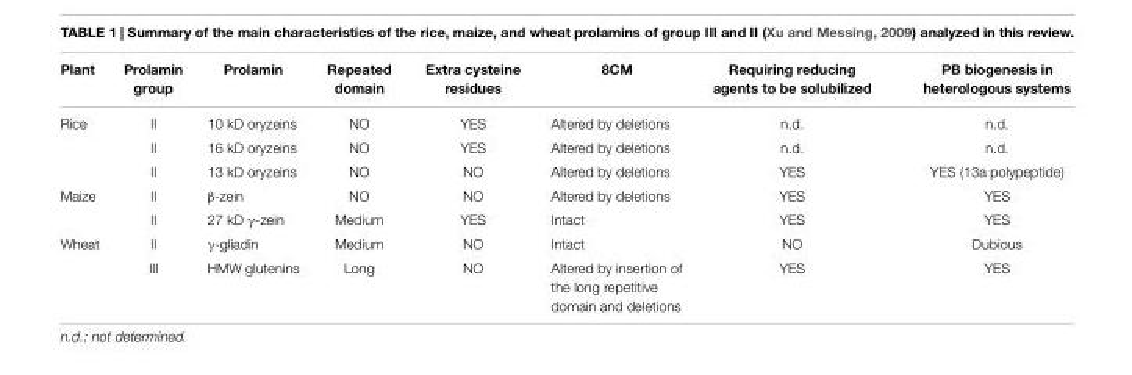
<table><thead><tr><td>Plant</td><td>Prolamin group</td><td>Prolamin</td><td>Repeated domain</td><td>Extra cysteine residues</td><td>8CM</td><td>Requiring reducing agents to be solubilized</td><td>PB biogenesis in heterologous systems</td></tr></thead><tbody><tr><td rowspan="3">Rice</td><td>II</td><td>10 kD oryzeins</td><td>NO</td><td>YES</td><td>Altered by deletions</td><td>n.d.</td><td>n.d.</td></tr><tr><td>II</td><td>16 kD oryzeins</td><td>NO</td><td>YES</td><td>Altered by deletions</td><td>n.d.</td><td>n.d.</td></tr><tr><td>II</td><td>13 kD oryzeins</td><td>NO</td><td>NO</td><td>Altered by deletions</td><td>YES</td><td>YES (13a polypeptide)</td></tr><tr><td rowspan="2">Maize</td><td>II</td><td>β-zein</td><td>NO</td><td>NO</td><td>Altered by deletions</td><td>YES</td><td>YES</td></tr><tr><td>II</td><td>27 kD γ-zein</td><td>Medium</td><td>YES</td><td>Intact</td><td>YES</td><td>YES</td></tr><tr><td rowspan="2">Wheat</td><td>II</td><td>γ-gliadin</td><td>Medium</td><td>NO</td><td>Intact</td><td>NO</td><td>Dubious</td></tr><tr><td>III</td><td>HMW glutenins</td><td>Long</td><td>NO</td><td>Altered by insertion of the long repetitive domain and deletions</td><td>YES</td><td>YES</td></tr></tbody></table>